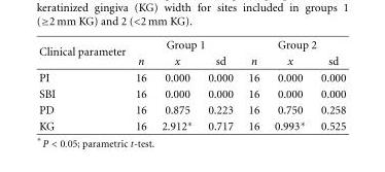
<table><thead><tr><td rowspan="2">Clinical parameter</td><td colspan="3">Group 1</td><td colspan="3">Group 2</td></tr><tr><td>n</td><td>x</td><td>sd</td><td>n</td><td>x</td><td>sd</td></tr></thead><tbody><tr><td>PI</td><td>16</td><td>0.000</td><td>0.000</td><td>16</td><td>0.000</td><td>0.000</td></tr><tr><td>SBI</td><td>16</td><td>0.000</td><td>0.000</td><td>16</td><td>0.000</td><td>0.000</td></tr><tr><td>PD</td><td>16</td><td>0.875</td><td>0.223</td><td>16</td><td>0.750</td><td>0.258</td></tr><tr><td>KG</td><td>16</td><td>2.912∗</td><td>0.717</td><td>16</td><td>0.993∗</td><td>0.525</td></tr></tbody></table>